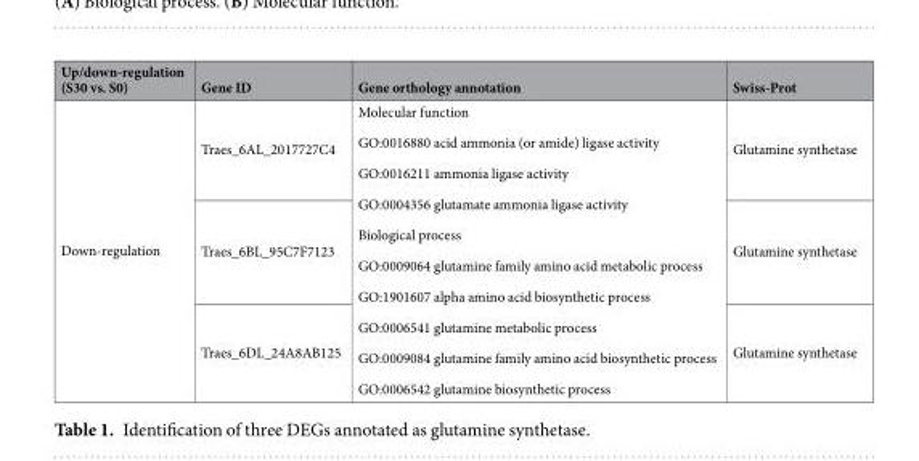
<table><thead><tr><td>Up/down-regulation (S30 vs. S0)</td><td>Gene ID</td><td>Gene orthology annotation</td><td>Swiss-Prot</td></tr></thead><tbody><tr><td rowspan="3">Down-regulation</td><td>Traes_6AL_2017727C4</td><td rowspan="3">Molecular function GO:0016880 acid ammonia (or amide) ligase activity GO:0016211 ammonia ligase activity GO:0004356 glutamate ammonia ligase activity Biological process GO:0009064 glutamine family amino acid metabolic process GO:1901607 alpha amino acid biosynthetic process GO:0006541 glutamine metabolic process GO:0009084 glutamine family amino acid biosynthetic process GO:0006542 glutamine biosynthetic process</td><td>Glutamine synthetase</td></tr><tr><td>Traes_6BL_95C7F7123</td><td>Glutamine synthetase</td></tr><tr><td>Traes_6DL_24A8AB125</td><td>Glutamine synthetase</td></tr></tbody></table>